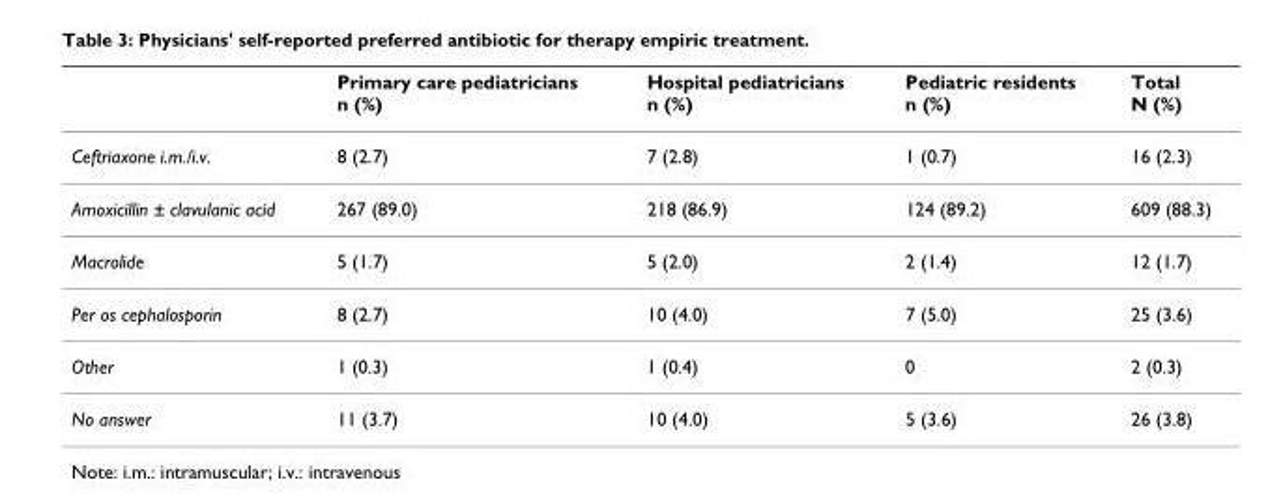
<table><thead><tr><td></td><td>Primary care pediatricians n (%)</td><td>Hospital pediatricians n (%)</td><td>Pediatric residents n (%)</td><td>Total N (%)</td></tr></thead><tbody><tr><td>Ceftriaxone i.m./i.v.</td><td>8 (2.7)</td><td>7 (2.8)</td><td>1 (0.7)</td><td>16 (2.3)</td></tr><tr><td>Amoxicillin ± clavulanic acid</td><td>267 (89.0)</td><td>218 (86.9)</td><td>124 (89.2)</td><td>609 (88.3)</td></tr><tr><td>Macrolide</td><td>5 (1.7)</td><td>5 (2.0)</td><td>2 (1.4)</td><td>12 (1.7)</td></tr><tr><td>Per os cephalosporin</td><td>8 (2.7)</td><td>10 (4.0)</td><td>7 (5.0)</td><td>25 (3.6)</td></tr><tr><td>Other</td><td>1 (0.3)</td><td>1 (0.4)</td><td>0</td><td>2 (0.3)</td></tr><tr><td>No answer</td><td>11 (3.7)</td><td>10 (4.0)</td><td>5 (3.6)</td><td>26 (3.8)</td></tr></tbody></table>